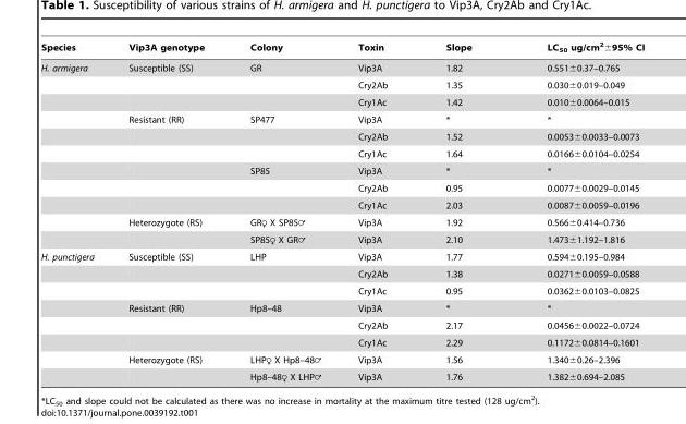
<table><thead><tr><td>Species</td><td>Vip3A genotype</td><td>Colony</td><td>Toxin</td><td>Slope</td><td>LC<sub>50</sub> ug/cm<sup>2</sup>±95% CI</td></tr></thead><tbody><tr><td rowspan="11">H. armigera</td><td>Susceptible (SS)</td><td>GR</td><td>Vip3A</td><td>1.82</td><td>0.551±0.37–0.765</td></tr><tr><td></td><td></td><td>Cry2Ab</td><td>1.35</td><td>0.030±0.019–0.049</td></tr><tr><td></td><td></td><td>Cry1Ac</td><td>1.42</td><td>0.010±0.0064–0.015</td></tr><tr><td>Resistant (RR)</td><td>SP477</td><td>Vip3A</td><td>*</td><td>*</td></tr><tr><td></td><td></td><td>Cry2Ab</td><td>1.52</td><td>0.0053±0.0033–0.0073</td></tr><tr><td></td><td></td><td>Cry1Ac</td><td>1.64</td><td>0.0166±0.0104–0.0254</td></tr><tr><td></td><td>SP85</td><td>Vip3A</td><td>*</td><td>*</td></tr><tr><td></td><td></td><td>Cry2Ab</td><td>0.95</td><td>0.0077±0.0029–0.0145</td></tr><tr><td></td><td></td><td>Cry1Ac</td><td>2.03</td><td>0.0087±0.0059–0.0196</td></tr><tr><td>Heterozygote (RS)</td><td>GRR X SP85=</td><td>Vip3A</td><td>1.92</td><td>0.566±0.414–0.736</td></tr><tr><td></td><td>SP85R X GR=</td><td>Vip3A</td><td>2.10</td><td>1.473±1.192–1.816</td></tr><tr><td rowspan="8">H. punctigera</td><td>Susceptible (SS)</td><td>LHP</td><td>Vip3A</td><td>1.77</td><td>0.594±0.195–0.984</td></tr><tr><td></td><td></td><td>Cry2Ab</td><td>1.38</td><td>0.0271±0.0059–0.0588</td></tr><tr><td></td><td></td><td>Cry1Ac</td><td>0.95</td><td>0.0362±0.0103–0.0825</td></tr><tr><td>Resistant (RR)</td><td>Hp8–48</td><td>Vip3A</td><td>*</td><td>*</td></tr><tr><td></td><td></td><td>Cry2Ab</td><td>2.17</td><td>0.0456±0.0022–0.0724</td></tr><tr><td></td><td></td><td>Cry1Ac</td><td>2.29</td><td>0.1172±0.0814–0.1601</td></tr><tr><td>Heterozygote (RS)</td><td>LHPR X Hp8–48=</td><td>Vip3A</td><td>1.56</td><td>1.340±0.26–2.396</td></tr><tr><td></td><td>Hp8–48R X LHP=</td><td>Vip3A</td><td>1.76</td><td>1.382±0.694–2.085</td></tr></tbody></table>